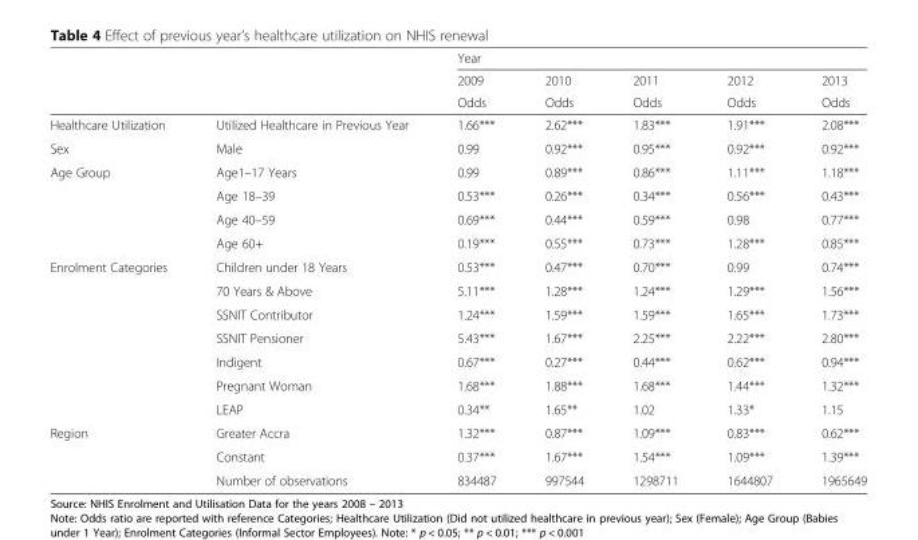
<table><thead><tr><td rowspan="3"></td><td rowspan="3"></td><td colspan="5">Year</td></tr><tr><td rowspan="2">2009 Odds</td><td rowspan="2">2010 Odds</td><td rowspan="2">2011 Odds</td><td rowspan="2">2012 Odds</td><td rowspan="2">2013 Odds</td></tr><tr></tr></thead><tbody><tr><td>Healthcare Utilization</td><td>Utilized Healthcare in Previous Year</td><td>1.66***</td><td>2.62***</td><td>1.83***</td><td>1.91***</td><td>2.08***</td></tr><tr><td>Sex</td><td>Male</td><td>0.99</td><td>0.92***</td><td>0.95***</td><td>0.92***</td><td>0.92***</td></tr><tr><td rowspan="4">Age Group</td><td>Age1–17 Years</td><td>0.99</td><td>0.89***</td><td>0.86***</td><td>1.11***</td><td>1.18***</td></tr><tr><td>Age 18–39</td><td>0.53***</td><td>0.26***</td><td>0.34***</td><td>0.56***</td><td>0.43***</td></tr><tr><td>Age 40–59</td><td>0.69***</td><td>0.44***</td><td>0.59***</td><td>0.98</td><td>0.77***</td></tr><tr><td>Age 60+</td><td>0.19***</td><td>0.55***</td><td>0.73***</td><td>1.28***</td><td>0.85***</td></tr><tr><td rowspan="7">Enrolment Categories</td><td>Children under 18 Years</td><td>0.53***</td><td>0.47***</td><td>0.70***</td><td>0.99</td><td>0.74***</td></tr><tr><td>70 Years &amp; Above</td><td>5.11***</td><td>1.28***</td><td>1.24***</td><td>1.29***</td><td>1.56***</td></tr><tr><td>SSNIT Contributor</td><td>1.24***</td><td>1.59***</td><td>1.59***</td><td>1.65***</td><td>1.73***</td></tr><tr><td>SSNIT Pensioner</td><td>5.43***</td><td>1.67***</td><td>2.25***</td><td>2.22***</td><td>2.80***</td></tr><tr><td>Indigent</td><td>0.67***</td><td>0.27***</td><td>0.44***</td><td>0.62***</td><td>0.94***</td></tr><tr><td>Pregnant Woman</td><td>1.68***</td><td>1.88***</td><td>1.68***</td><td>1.44***</td><td>1.32***</td></tr><tr><td>LEAP</td><td>0.34**</td><td>1.65**</td><td>1.02</td><td>1.33*</td><td>1.15</td></tr><tr><td rowspan="3">Region</td><td>Greater Accra</td><td>1.32***</td><td>0.87***</td><td>1.09***</td><td>0.83***</td><td>0.62***</td></tr><tr><td>Constant</td><td>0.37***</td><td>1.67***</td><td>1.54***</td><td>1.09***</td><td>1.39***</td></tr><tr><td>Number of observations</td><td>834487</td><td>997544</td><td>1298711</td><td>1644807</td><td>1965649</td></tr></tbody></table>